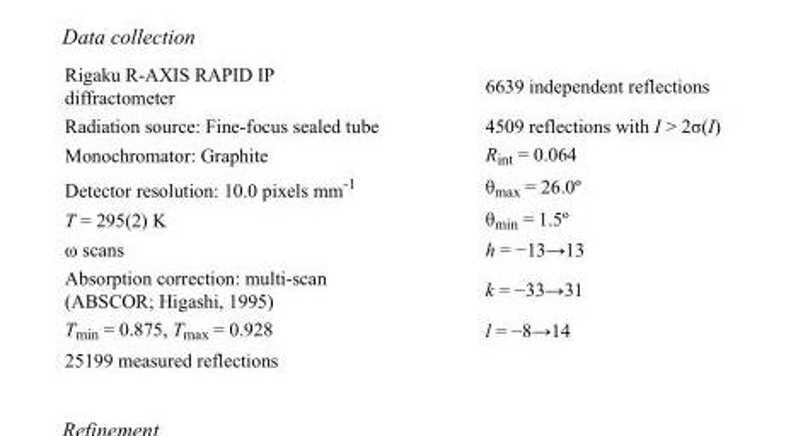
<table><tbody><tr><td>Rigaku R-AXIS RAPID IP diffractometer</td><td>6639 independent reflections</td></tr><tr><td>Radiation source: Fine-focus sealed tube</td><td>4509 reflections with I &gt; 2σ(I)</td></tr><tr><td>Monochromator: Graphite</td><td>R<sub>int</sub> = 0.064</td></tr><tr><td>Detector resolution: 10.0 pixels mm<sup>-1</sup></td><td>θ<sub>max</sub> = 26.0º</td></tr><tr><td>T = 295(2) K</td><td>θ<sub>min</sub> = 1.5º</td></tr><tr><td>ω scans</td><td>h = −13→13</td></tr><tr><td>Absorption correction: multi-scan (ABSCOR; Higashi, 1995)</td><td>k = −33→31</td></tr><tr><td>T<sub>min</sub> = 0.875, T<sub>max</sub> = 0.928</td><td>l = −8→14</td></tr><tr><td>25199 measured reflections</td><td></td></tr></tbody></table>